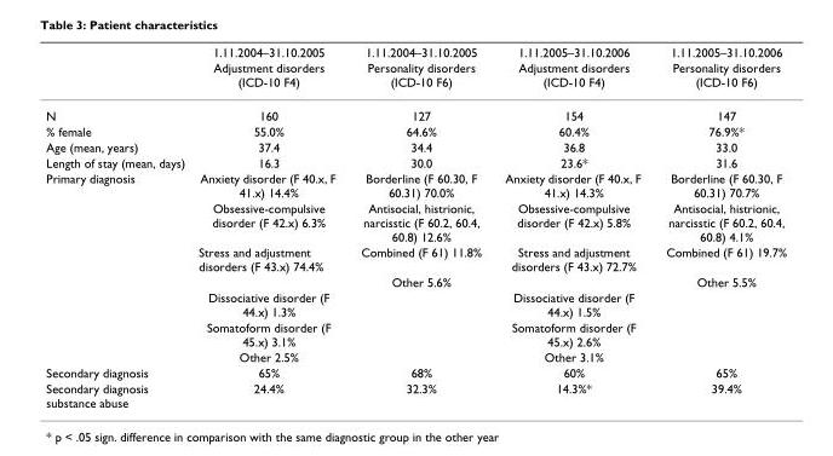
<table><thead><tr><td rowspan="2"></td><td rowspan="2">1.11.2004–31.10.2005 Adjustment disorders (ICD-10 F4)</td><td rowspan="2">1.11.2004–31.10.2005 Personality disorders (ICD-10 F6)</td><td rowspan="2">1.11.2005–31.10.2006 Adjustment disorders (ICD-10 F4)</td><td rowspan="2">1.11.2005–31.10.2006 Personality disorders (ICD-10 F6)</td></tr><tr></tr></thead><tbody><tr><td>N</td><td>160</td><td>127</td><td>154</td><td>147</td></tr><tr><td>% female</td><td>55.0%</td><td>64.6%</td><td>60.4%</td><td>76.9%*</td></tr><tr><td>Age (mean, years)</td><td>37.4</td><td>34.4</td><td>36.8</td><td>33.0</td></tr><tr><td>Length of stay (mean, days)</td><td>16.3</td><td>30.0</td><td>23.6*</td><td>31.6</td></tr><tr><td rowspan="7">Primary diagnosis</td><td>Anxiety disorder (F 40.x, F 41.x) 14.4%</td><td>Borderline (F 60.30, F 60.31) 70.0%</td><td>Anxiety disorder (F 40.x, F 41.x) 14.3%</td><td>Borderline (F 60.30, F 60.31) 70.7%</td></tr><tr><td>Obsessive-compulsive disorder (F 42.x) 6.3%</td><td>Antisocial, histrionic, narcisstic (F 60.2, 60.4, 60.8) 12.6%</td><td>Obsessive-compulsive disorder (F 42.x) 5.8%</td><td>Antisocial, histrionic, narcisstic (F 60.2, 60.4, 60.8) 4.1%</td></tr><tr><td>Stress and adjustment disorders (F 43.x) 74.4%</td><td>Combined (F 61) 11.8%</td><td>Stress and adjustment disorders (F 43.x) 72.7%</td><td>Combined (F 61) 19.7%</td></tr><tr><td></td><td>Other 5.6%</td><td></td><td>Other 5.5%</td></tr><tr><td>Dissociative disorder (F 44.x) 1.3%</td><td></td><td>Dissociative disorder (F 44.x) 1.5%</td><td></td></tr><tr><td>Somatoform disorder (F 45.x) 3.1%</td><td></td><td>Somatoform disorder (F 45.x) 2.6%</td><td></td></tr><tr><td>Other 2.5%</td><td></td><td>Other 3.1%</td><td></td></tr><tr><td>Secondary diagnosis</td><td>65%</td><td>68%</td><td>60%</td><td>65%</td></tr><tr><td>Secondary diagnosis substance abuse</td><td>24.4%</td><td>32.3%</td><td>14.3%*</td><td>39.4%</td></tr></tbody></table>